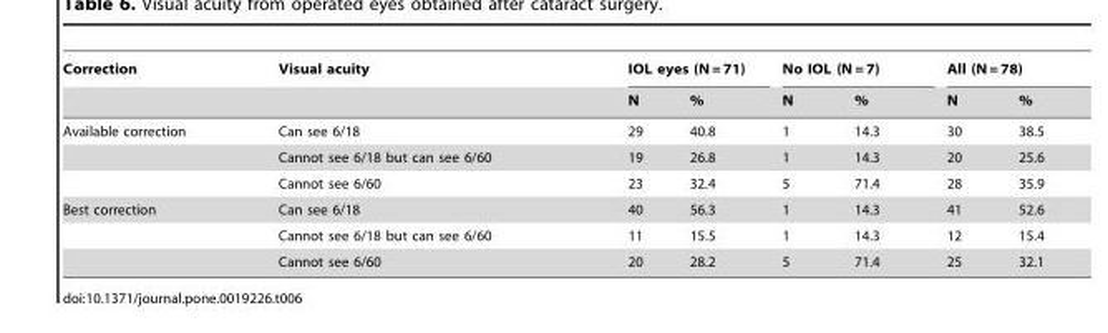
<table><thead><tr><td rowspan="2">Correction</td><td rowspan="2">Visual acuity</td><td colspan="2">IOL eyes (N = 71)</td><td colspan="2">No IOL (N = 7)</td><td colspan="2">All (N = 78)</td></tr><tr><td>N</td><td>%</td><td>N</td><td>%</td><td>N</td><td>%</td></tr></thead><tbody><tr><td rowspan="3">Available correction</td><td>Can see 6/18</td><td>29</td><td>40.8</td><td>1</td><td>14.3</td><td>30</td><td>38.5</td></tr><tr><td>Cannot see 6/18 but can see 6/60</td><td>19</td><td>26.8</td><td>1</td><td>14.3</td><td>20</td><td>25.6</td></tr><tr><td>Cannot see 6/60</td><td>23</td><td>32.4</td><td>5</td><td>71.4</td><td>28</td><td>35.9</td></tr><tr><td rowspan="3">Best correction</td><td>Can see 6/18</td><td>40</td><td>56.3</td><td>1</td><td>14.3</td><td>41</td><td>52.6</td></tr><tr><td>Cannot see 6/18 but can see 6/60</td><td>11</td><td>15.5</td><td>1</td><td>14.3</td><td>12</td><td>15.4</td></tr><tr><td>Cannot see 6/60</td><td>20</td><td>28.2</td><td>5</td><td>71.4</td><td>25</td><td>32.1</td></tr></tbody></table>